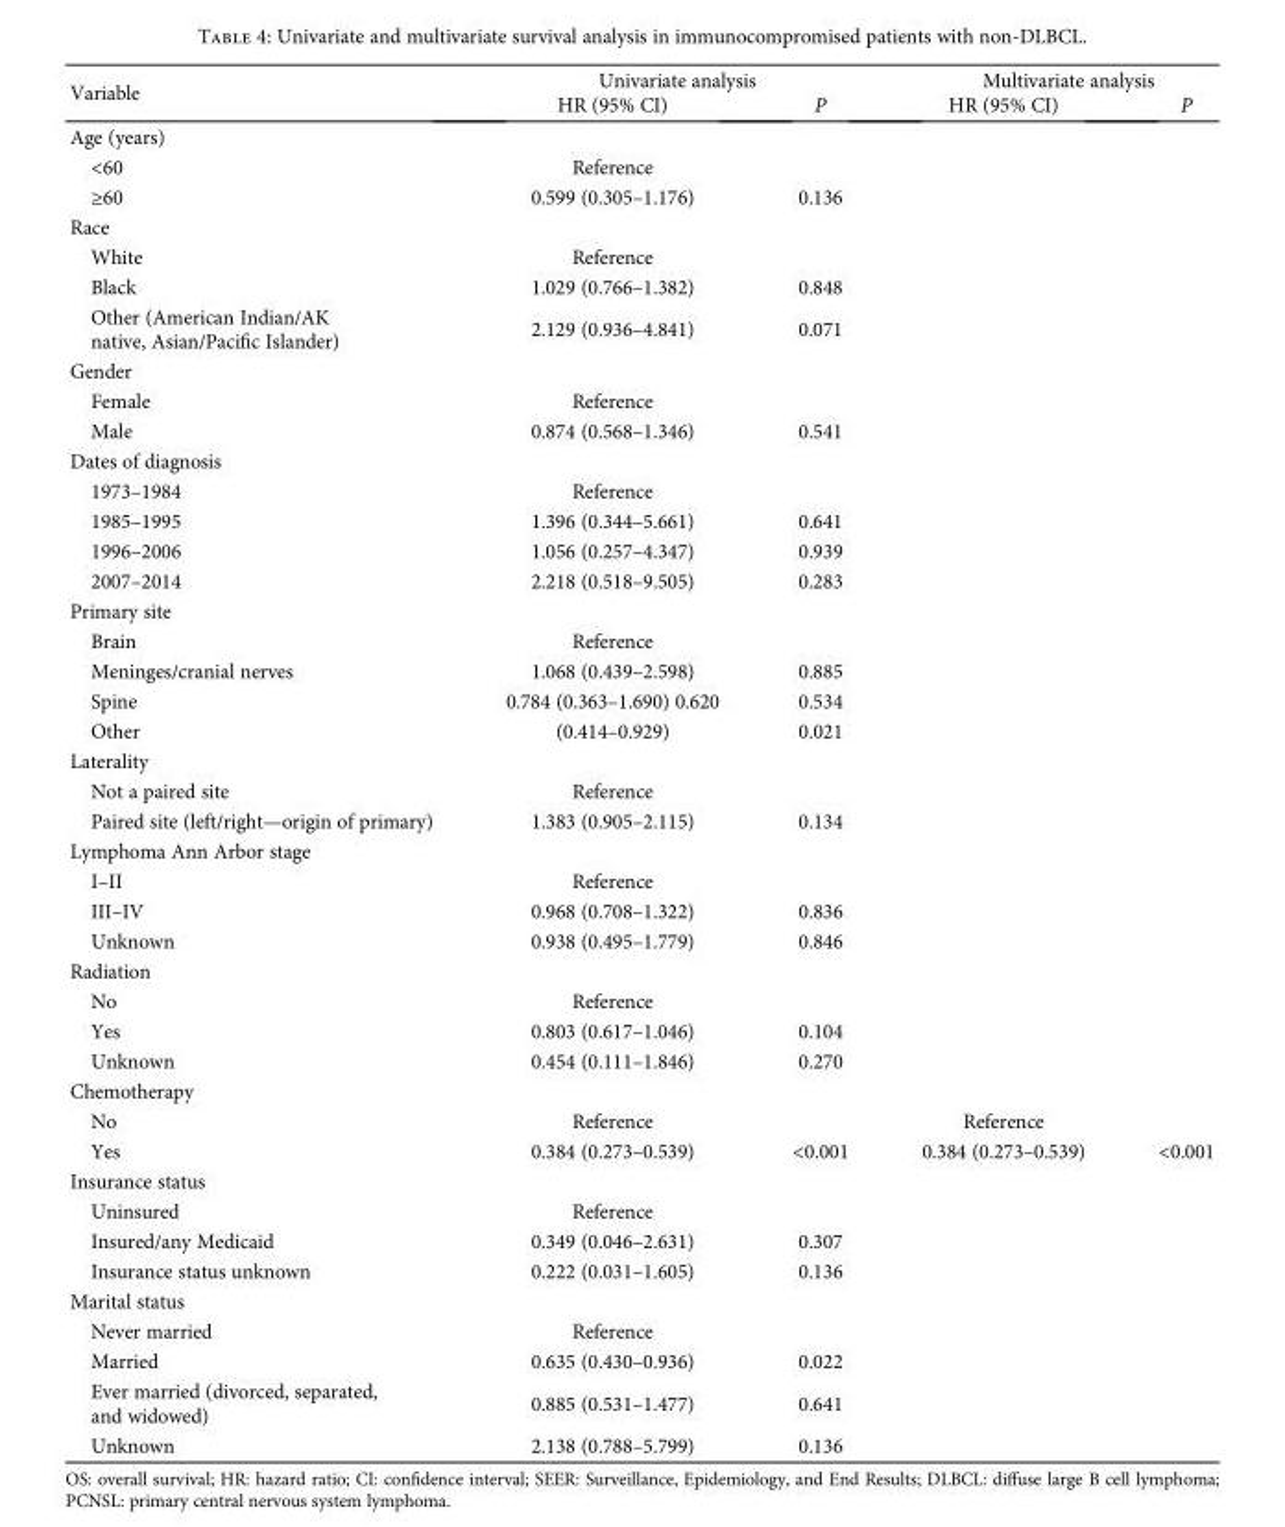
<table><thead><tr><td rowspan="2">Variable</td><td colspan="2">Univariate analysis</td><td colspan="2">Multivariate analysis</td></tr><tr><td>HR (95% CI)</td><td>P</td><td>HR (95% CI)</td><td>P</td></tr></thead><tbody><tr><td colspan="5">Age (years)</td></tr><tr><td>&lt;60</td><td>Reference</td><td></td><td></td><td></td></tr><tr><td>≥60</td><td>0.599 (0.305–1.176)</td><td>0.136</td><td></td><td></td></tr><tr><td colspan="5">Race</td></tr><tr><td>White</td><td>Reference</td><td></td><td></td><td></td></tr><tr><td>Black</td><td>1.029 (0.766–1.382)</td><td>0.848</td><td></td><td></td></tr><tr><td>Other (American Indian/AK native, Asian/Pacific Islander)</td><td>2.129 (0.936–4.841)</td><td>0.071</td><td></td><td></td></tr><tr><td colspan="5">Gender</td></tr><tr><td>Female</td><td>Reference</td><td></td><td></td><td></td></tr><tr><td>Male</td><td>0.874 (0.568–1.346)</td><td>0.541</td><td></td><td></td></tr><tr><td colspan="5">Dates of diagnosis</td></tr><tr><td>1973–1984</td><td>Reference</td><td></td><td></td><td></td></tr><tr><td>1985–1995</td><td>1.396 (0.344–5.661)</td><td>0.641</td><td></td><td></td></tr><tr><td>1996–2006</td><td>1.056 (0.257–4.347)</td><td>0.939</td><td></td><td></td></tr><tr><td>2007–2014</td><td>2.218 (0.518–9.505)</td><td>0.283</td><td></td><td></td></tr><tr><td colspan="5">Primary site</td></tr><tr><td>Brain</td><td>Reference</td><td></td><td></td><td></td></tr><tr><td>Meninges/cranial nerves</td><td>1.068 (0.439–2.598)</td><td>0.885</td><td></td><td></td></tr><tr><td>Spine</td><td>0.784 (0.363–1.690) 0.620</td><td>0.534</td><td></td><td></td></tr><tr><td>Other</td><td>(0.414–0.929)</td><td>0.021</td><td></td><td></td></tr><tr><td colspan="5">Laterality</td></tr><tr><td>Not a paired site</td><td>Reference</td><td></td><td></td><td></td></tr><tr><td>Paired site (left/right—origin of primary)</td><td>1.383 (0.905–2.115)</td><td>0.134</td><td></td><td></td></tr><tr><td colspan="5">Lymphoma Ann Arbor stage</td></tr><tr><td>I–II</td><td>Reference</td><td></td><td></td><td></td></tr><tr><td>III–IV</td><td>0.968 (0.708–1.322)</td><td>0.836</td><td></td><td></td></tr><tr><td>Unknown</td><td>0.938 (0.495–1.779)</td><td>0.846</td><td></td><td></td></tr><tr><td colspan="5">Radiation</td></tr><tr><td>No</td><td>Reference</td><td></td><td></td><td></td></tr><tr><td>Yes</td><td>0.803 (0.617–1.046)</td><td>0.104</td><td></td><td></td></tr><tr><td>Unknown</td><td>0.454 (0.111–1.846)</td><td>0.270</td><td></td><td></td></tr><tr><td colspan="5">Chemotherapy</td></tr><tr><td>No</td><td>Reference</td><td></td><td>Reference</td><td></td></tr><tr><td>Yes</td><td>0.384 (0.273–0.539)</td><td>&lt;0.001</td><td>0.384 (0.273–0.539)</td><td>&lt;0.001</td></tr><tr><td colspan="5">Insurance status</td></tr><tr><td>Uninsured</td><td>Reference</td><td></td><td></td><td></td></tr><tr><td>Insured/any Medicaid</td><td>0.349 (0.046–2.631)</td><td>0.307</td><td></td><td></td></tr><tr><td>Insurance status unknown</td><td>0.222 (0.031–1.605)</td><td>0.136</td><td></td><td></td></tr><tr><td colspan="5">Marital status</td></tr><tr><td>Never married</td><td>Reference</td><td></td><td></td><td></td></tr><tr><td>Married</td><td>0.635 (0.430–0.936)</td><td>0.022</td><td></td><td></td></tr><tr><td>Ever married (divorced, separated, and widowed)</td><td>0.885 (0.531–1.477)</td><td>0.641</td><td></td><td></td></tr><tr><td>Unknown</td><td>2.138 (0.788–5.799)</td><td>0.136</td><td></td><td></td></tr></tbody></table>